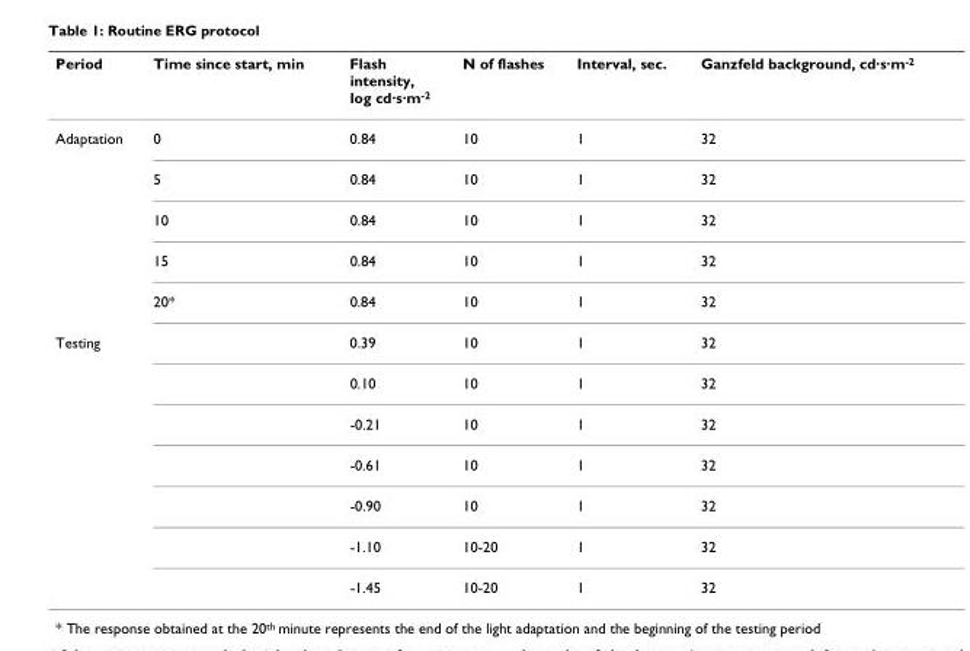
<table><thead><tr><td>Period</td><td>Time since start, min</td><td>Flash intensity, log cd·s·m<sup>-2</sup></td><td>N of flashes</td><td>Interval, sec.</td><td>Ganzfeld background, cd·s·m<sup>-2</sup></td></tr></thead><tbody><tr><td rowspan="5">Adaptation</td><td>0</td><td>0.84</td><td>10</td><td>1</td><td>32</td></tr><tr><td>5</td><td>0.84</td><td>10</td><td>1</td><td>32</td></tr><tr><td>10</td><td>0.84</td><td>10</td><td>1</td><td>32</td></tr><tr><td>15</td><td>0.84</td><td>10</td><td>1</td><td>32</td></tr><tr><td>20*</td><td>0.84</td><td>10</td><td>1</td><td>32</td></tr><tr><td rowspan="7">Testing</td><td></td><td>0.39</td><td>10</td><td>1</td><td>32</td></tr><tr><td></td><td>0.10</td><td>10</td><td>1</td><td>32</td></tr><tr><td></td><td>-0.21</td><td>10</td><td>1</td><td>32</td></tr><tr><td></td><td>-0.61</td><td>10</td><td>1</td><td>32</td></tr><tr><td></td><td>-0.90</td><td>10</td><td>1</td><td>32</td></tr><tr><td></td><td>-1.10</td><td>10-20</td><td>1</td><td>32</td></tr><tr><td></td><td>-1.45</td><td>10-20</td><td>1</td><td>32</td></tr></tbody></table>